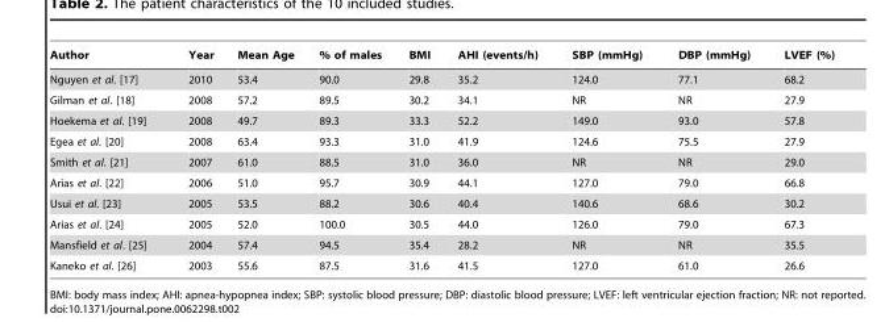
<table><thead><tr><td>Author</td><td>Year</td><td>Mean Age</td><td>% of males</td><td>BMI</td><td>AHI (events/h)</td><td>SBP (mmHg)</td><td>DBP (mmHg)</td><td>LVEF (%)</td></tr></thead><tbody><tr><td>Nguyen et al. [17]</td><td>2010</td><td>53.4</td><td>90.0</td><td>29.8</td><td>35.2</td><td>124.0</td><td>77.1</td><td>68.2</td></tr><tr><td>Gilman et al. [18]</td><td>2008</td><td>57.2</td><td>89.5</td><td>30.2</td><td>34.1</td><td>NR</td><td>NR</td><td>27.9</td></tr><tr><td>Hoekema et al. [19]</td><td>2008</td><td>49.7</td><td>89.3</td><td>33.3</td><td>52.2</td><td>149.0</td><td>93.0</td><td>57.8</td></tr><tr><td>Egea et al. [20]</td><td>2008</td><td>63.4</td><td>93.3</td><td>31.0</td><td>41.9</td><td>124.6</td><td>75.5</td><td>27.9</td></tr><tr><td>Smith et al. [21]</td><td>2007</td><td>61.0</td><td>88.5</td><td>31.0</td><td>36.0</td><td>NR</td><td>NR</td><td>29.0</td></tr><tr><td>Arias et al. [22]</td><td>2006</td><td>51.0</td><td>95.7</td><td>30.9</td><td>44.1</td><td>127.0</td><td>79.0</td><td>66.8</td></tr><tr><td>Usui et al. [23]</td><td>2005</td><td>53.5</td><td>88.2</td><td>30.6</td><td>40.4</td><td>140.6</td><td>68.6</td><td>30.2</td></tr><tr><td>Arias et al. [24]</td><td>2005</td><td>52.0</td><td>100.0</td><td>30.5</td><td>44.0</td><td>126.0</td><td>79.0</td><td>67.3</td></tr><tr><td>Mansfield et al. [25]</td><td>2004</td><td>57.4</td><td>94.5</td><td>35.4</td><td>28.2</td><td>NR</td><td>NR</td><td>35.5</td></tr><tr><td>Kaneko et al. [26]</td><td>2003</td><td>55.6</td><td>87.5</td><td>31.6</td><td>41.5</td><td>127.0</td><td>61.0</td><td>26.6</td></tr></tbody></table>